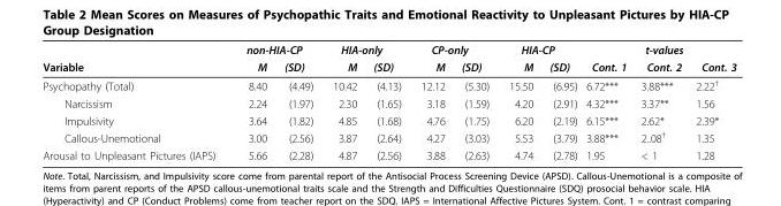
<table><thead><tr><td rowspan="2">Variable</td><td colspan="2">non-HIA-CP</td><td colspan="2">HIA-only</td><td colspan="2">CP-only</td><td colspan="2">HIA-CP</td><td colspan="3">t-values</td></tr><tr><td>M</td><td>(SD)</td><td>M</td><td>(SD)</td><td>M</td><td>(SD)</td><td>M</td><td>(SD)</td><td>Cont. 1</td><td>Cont. 2</td><td>Cont. 3</td></tr></thead><tbody><tr><td>Psychopathy (Total)</td><td>8.40</td><td>(4.49)</td><td>10.42</td><td>(4.13)</td><td>12.12</td><td>(5.30)</td><td>15.50</td><td>(6.95)</td><td>6.72***</td><td>3.88***</td><td>2.22<sup>†</sup></td></tr><tr><td>Narcissism</td><td>2.24</td><td>(1.97)</td><td>2.30</td><td>(1.65)</td><td>3.18</td><td>(1.59)</td><td>4.20</td><td>(2.91)</td><td>4.32***</td><td>3.37**</td><td>1.56</td></tr><tr><td>Impulsivity</td><td>3.64</td><td>(1.82)</td><td>4.85</td><td>(1.68)</td><td>4.76</td><td>(1.75)</td><td>6.20</td><td>(2.19)</td><td>6.15***</td><td>2.62*</td><td>2.39*</td></tr><tr><td>Callous-Unemotional</td><td>3.00</td><td>(2.56)</td><td>3.87</td><td>(2.64)</td><td>4.27</td><td>(3.03)</td><td>5.53</td><td>(3.79)</td><td>3.88***</td><td>2..08<sup>†</sup></td><td>1.35</td></tr><tr><td>Arousal to Unpleasant Pictures (IAPS)</td><td>5.66</td><td>(2.28)</td><td>4.87</td><td>(2.56)</td><td>3.88</td><td>(2.63)</td><td>4.74</td><td>(2.78)</td><td>1.95</td><td>&lt; 1</td><td>1.28</td></tr></tbody></table>